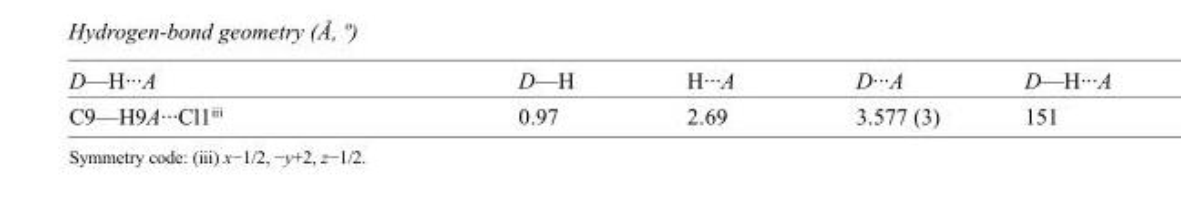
<table><tbody><tr><td>D—H···A</td><td>D—H</td><td>H···A</td><td>D···A</td><td>D—H···A</td></tr><tr><td>C9—H9A···Cl1<sup>iii</sup></td><td>0.97</td><td>2.69</td><td>3.577 (3)</td><td>151</td></tr></tbody></table>